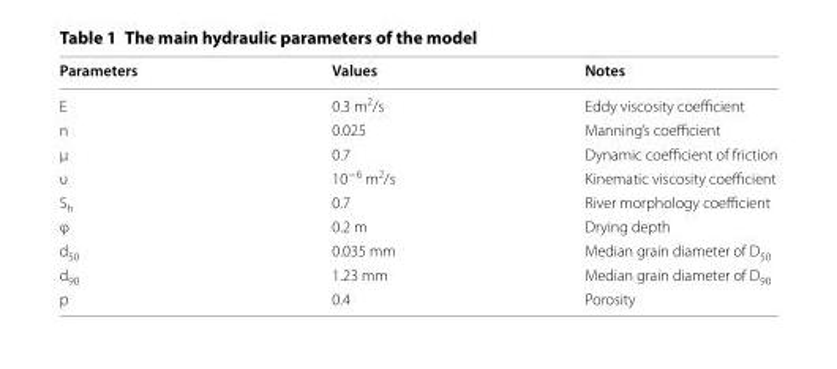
<table><thead><tr><td>Parameters</td><td>Values</td><td>Notes</td></tr></thead><tbody><tr><td>E</td><td>0.3 m<sup>2</sup>/s</td><td>Eddy viscosity coefficient</td></tr><tr><td>n</td><td>0.025</td><td>Manning’s coefficient</td></tr><tr><td>µ</td><td>0.7</td><td>Dynamic coefficient of friction</td></tr><tr><td>υ</td><td>10<sup>−6</sup> m<sup>2</sup>/s</td><td>Kinematic viscosity coefficient</td></tr><tr><td>S<sub>h</sub></td><td>0.7</td><td>River morphology coefficient</td></tr><tr><td>φ</td><td>0.2 m</td><td>Drying depth</td></tr><tr><td>d<sub>50</sub></td><td>0.035 mm</td><td>Median grain diameter of D<sub>50</sub></td></tr><tr><td>d<sub>90</sub></td><td>1.23 mm</td><td>Median grain diameter of D<sub>90</sub></td></tr><tr><td>p</td><td>0.4</td><td>Porosity</td></tr></tbody></table>